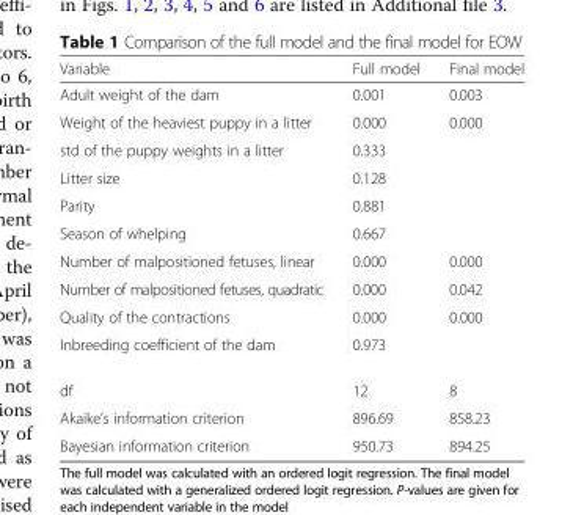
<table><thead><tr><td>Variable</td><td>Full model</td><td>Final model</td></tr></thead><tbody><tr><td>Adult weight of the dam</td><td>0.001</td><td>0.003</td></tr><tr><td>Weight of the heaviest puppy in a litter</td><td>0.000</td><td>0.000</td></tr><tr><td>std of the puppy weights in a litter</td><td>0.333</td><td></td></tr><tr><td>Litter size</td><td>0.128</td><td></td></tr><tr><td>Parity</td><td>0.881</td><td></td></tr><tr><td>Season of whelping</td><td>0.667</td><td></td></tr><tr><td>Number of malpositioned fetuses, linear</td><td>0.000</td><td>0.000</td></tr><tr><td>Number of malpositioned fetuses, quadratic</td><td>0.000</td><td>0.042</td></tr><tr><td>Quality of the contractions</td><td>0.000</td><td>0.000</td></tr><tr><td>Inbreeding coefficient of the dam</td><td>0.973</td><td></td></tr><tr><td>df</td><td>12</td><td>8</td></tr><tr><td>Akaike’s information criterion</td><td>896.69</td><td>858.23</td></tr><tr><td>Bayesian information criterion</td><td>950.73</td><td>894.25</td></tr></tbody></table>